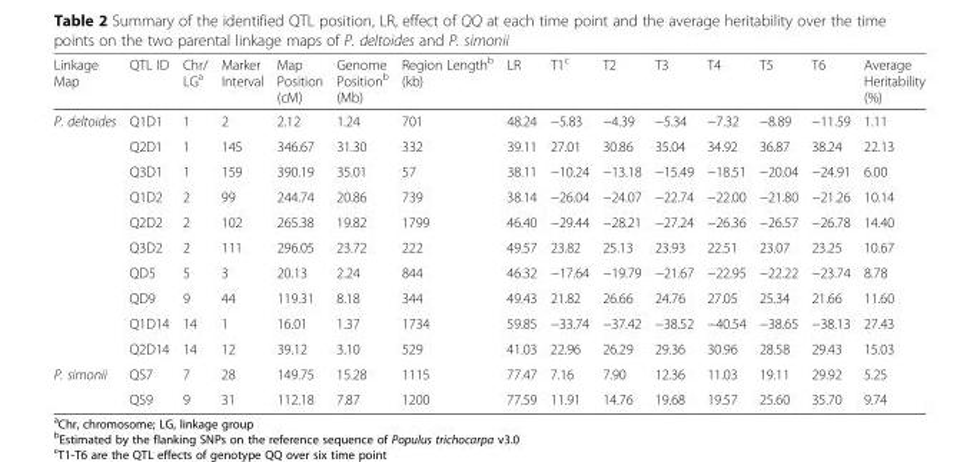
<table><thead><tr><td>Linkage Map</td><td>QTL ID</td><td>Chr/ LG<sup>a</sup></td><td>Marker Interval</td><td>Map Position (cM)</td><td>Genome Position<sup>b</sup> (Mb)</td><td>Region Length<sup>b</sup> (kb)</td><td>LR</td><td>T1<sup>c</sup></td><td>T2</td><td>T3</td><td>T4</td><td>T5</td><td>T6</td><td>Average Heritability (%)</td></tr></thead><tbody><tr><td rowspan="10">P. deltoides</td><td>Q1D1</td><td>1</td><td>2</td><td>2.12</td><td>1.24</td><td>701</td><td>48.24</td><td>−5.83</td><td>−4.39</td><td>−5.34</td><td>−7.32</td><td>−8.89</td><td>−11.59</td><td>1.11</td></tr><tr><td>Q2D1</td><td>1</td><td>145</td><td>346.67</td><td>31.30</td><td>332</td><td>39.11</td><td>27.01</td><td>30.86</td><td>35.04</td><td>34.92</td><td>36.87</td><td>38.24</td><td>22.13</td></tr><tr><td>Q3D1</td><td>1</td><td>159</td><td>390.19</td><td>35.01</td><td>57</td><td>38.11</td><td>−10.24</td><td>−13.18</td><td>−15.49</td><td>−18.51</td><td>−20.04</td><td>−24.91</td><td>6.00</td></tr><tr><td>Q1D2</td><td>2</td><td>99</td><td>244.74</td><td>20.86</td><td>739</td><td>38.14</td><td>−26.04</td><td>−24.07</td><td>−22.74</td><td>−22.00</td><td>−21.80</td><td>−21.26</td><td>10.14</td></tr><tr><td>Q2D2</td><td>2</td><td>102</td><td>265.38</td><td>19.82</td><td>1799</td><td>46.40</td><td>−29.44</td><td>−28.21</td><td>−27.24</td><td>−26.36</td><td>−26.57</td><td>−26.78</td><td>14.40</td></tr><tr><td>Q3D2</td><td>2</td><td>111</td><td>296.05</td><td>23.72</td><td>222</td><td>49.57</td><td>23.82</td><td>25.13</td><td>23.93</td><td>22.51</td><td>23.07</td><td>23.25</td><td>10.67</td></tr><tr><td>QD5</td><td>5</td><td>3</td><td>20.13</td><td>2.24</td><td>844</td><td>46.32</td><td>−17.64</td><td>−19.79</td><td>−21.67</td><td>−22.95</td><td>−22.22</td><td>−23.74</td><td>8.78</td></tr><tr><td>QD9</td><td>9</td><td>44</td><td>119.31</td><td>8.18</td><td>344</td><td>49.43</td><td>21.82</td><td>26.66</td><td>24.76</td><td>27.05</td><td>25.34</td><td>21.66</td><td>11.60</td></tr><tr><td>Q1D14</td><td>14</td><td>1</td><td>16.01</td><td>1.37</td><td>1734</td><td>59.85</td><td>−33.74</td><td>−37.42</td><td>−38.52</td><td>−40.54</td><td>−38.65</td><td>−38.13</td><td>27.43</td></tr><tr><td>Q2D14</td><td>14</td><td>12</td><td>39.12</td><td>3.10</td><td>529</td><td>41.03</td><td>22.96</td><td>26.29</td><td>29.36</td><td>30.96</td><td>28.58</td><td>29.43</td><td>15.03</td></tr><tr><td rowspan="2">P. simonii</td><td>QS7</td><td>7</td><td>28</td><td>149.75</td><td>15.28</td><td>1115</td><td>77.47</td><td>7.16</td><td>7.90</td><td>12.36</td><td>11.03</td><td>19.11</td><td>29.92</td><td>5.25</td></tr><tr><td>QS9</td><td>9</td><td>31</td><td>112.18</td><td>7.87</td><td>1200</td><td>77.59</td><td>11.91</td><td>14.76</td><td>19.68</td><td>19.57</td><td>25.60</td><td>35.70</td><td>9.74</td></tr></tbody></table>